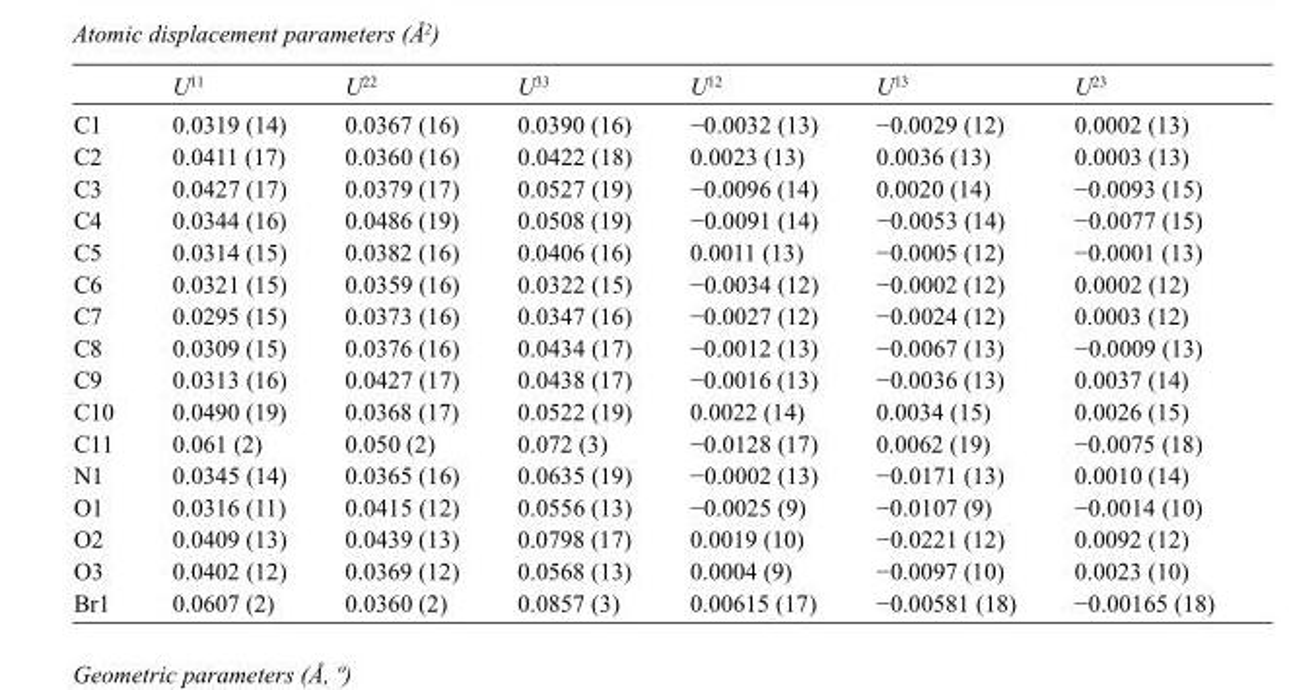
<table><thead><tr><td></td><td>U<sup>11</sup></td><td>U<sup>22</sup></td><td>U<sup>33</sup></td><td>U<sup>12</sup></td><td>U<sup>13</sup></td><td>U<sup>23</sup></td></tr></thead><tbody><tr><td>C1</td><td>0.0319 (14)</td><td>0.0367 (16)</td><td>0.0390 (16)</td><td>−0.0032 (13)</td><td>−0.0029 (12)</td><td>0.0002 (13)</td></tr><tr><td>C2</td><td>0.0411 (17)</td><td>0.0360 (16)</td><td>0.0422 (18)</td><td>0.0023 (13)</td><td>0.0036 (13)</td><td>0.0003 (13)</td></tr><tr><td>C3</td><td>0.0427 (17)</td><td>0.0379 (17)</td><td>0.0527 (19)</td><td>−0.0096 (14)</td><td>0.0020 (14)</td><td>−0.0093 (15)</td></tr><tr><td>C4</td><td>0.0344 (16)</td><td>0.0486 (19)</td><td>0.0508 (19)</td><td>−0.0091 (14)</td><td>−0.0053 (14)</td><td>−0.0077 (15)</td></tr><tr><td>C5</td><td>0.0314 (15)</td><td>0.0382 (16)</td><td>0.0406 (16)</td><td>0.0011 (13)</td><td>−0.0005 (12)</td><td>−0.0001 (13)</td></tr><tr><td>C6</td><td>0.0321 (15)</td><td>0.0359 (16)</td><td>0.0322 (15)</td><td>−0.0034 (12)</td><td>−0.0002 (12)</td><td>0.0002 (12)</td></tr><tr><td>C7</td><td>0.0295 (15)</td><td>0.0373 (16)</td><td>0.0347 (16)</td><td>−0.0027 (12)</td><td>−0.0024 (12)</td><td>0.0003 (12)</td></tr><tr><td>C8</td><td>0.0309 (15)</td><td>0.0376 (16)</td><td>0.0434 (17)</td><td>−0.0012 (13)</td><td>−0.0067 (13)</td><td>−0.0009 (13)</td></tr><tr><td>C9</td><td>0.0313 (16)</td><td>0.0427 (17)</td><td>0.0438 (17)</td><td>−0.0016 (13)</td><td>−0.0036 (13)</td><td>0.0037 (14)</td></tr><tr><td>C10</td><td>0.0490 (19)</td><td>0.0368 (17)</td><td>0.0522 (19)</td><td>0.0022 (14)</td><td>0.0034 (15)</td><td>0.0026 (15)</td></tr><tr><td>C11</td><td>0.061 (2)</td><td>0.050 (2)</td><td>0.072 (3)</td><td>−0.0128 (17)</td><td>0.0062 (19)</td><td>−0.0075 (18)</td></tr><tr><td>N1</td><td>0.0345 (14)</td><td>0.0365 (16)</td><td>0.0635 (19)</td><td>−0.0002 (13)</td><td>−0.0171 (13)</td><td>0.0010 (14)</td></tr><tr><td>O1</td><td>0.0316 (11)</td><td>0.0415 (12)</td><td>0.0556 (13)</td><td>−0.0025 (9)</td><td>−0.0107 (9)</td><td>−0.0014 (10)</td></tr><tr><td>O2</td><td>0.0409 (13)</td><td>0.0439 (13)</td><td>0.0798 (17)</td><td>0.0019 (10)</td><td>−0.0221 (12)</td><td>0.0092 (12)</td></tr><tr><td>O3</td><td>0.0402 (12)</td><td>0.0369 (12)</td><td>0.0568 (13)</td><td>0.0004 (9)</td><td>−0.0097 (10)</td><td>0.0023 (10)</td></tr><tr><td>Br1</td><td>0.0607 (2)</td><td>0.0360 (2)</td><td>0.0857 (3)</td><td>0.00615 (17)</td><td>−0.00581 (18)</td><td>−0.00165 (18)</td></tr></tbody></table>